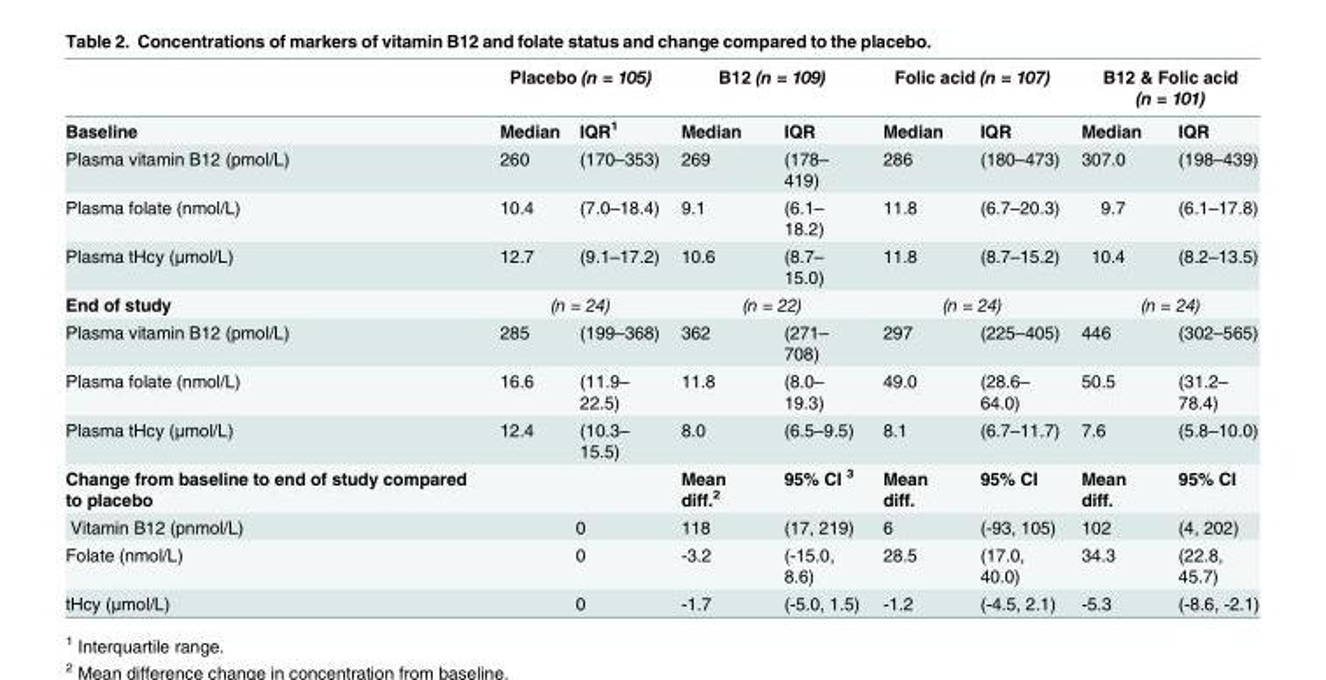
<table><thead><tr><td rowspan="2">Baseline</td><td colspan="2">Placebo (n = 105)</td><td colspan="2">B12 (n = 109)</td><td colspan="2">Folic acid (n = 107)</td><td colspan="2">B12 &amp; Folic acid (n = 101)</td></tr><tr><td>Median</td><td>IQR<sup>1</sup></td><td>Median</td><td>IQR</td><td>Median</td><td>IQR</td><td>Median</td><td>IQR</td></tr></thead><tbody><tr><td>Plasma vitamin B12 (pmol/L)</td><td>260</td><td>(170–353)</td><td>269</td><td>(178– 419)</td><td>286</td><td>(180–473)</td><td>307.0</td><td>(198–439)</td></tr><tr><td>Plasma folate (nmol/L)</td><td>10.4</td><td>(7.0–18.4)</td><td>9.1</td><td>(6.1– 18.2)</td><td>11.8</td><td>(6.7–20.3)</td><td>9.7</td><td>(6.1–17.8)</td></tr><tr><td>Plasma tHcy (μmol/L)</td><td>12.7</td><td>(9.1–17.2)</td><td>10.6</td><td>(8.7– 15.0)</td><td>11.8</td><td>(8.7–15.2)</td><td>10.4</td><td>(8.2–13.5)</td></tr><tr><td>End of study</td><td colspan="2">(n = 24)</td><td colspan="2">(n = 22)</td><td colspan="2">(n = 24)</td><td colspan="2">(n = 24)</td></tr><tr><td>Plasma vitamin B12 (pmol/L)</td><td>285</td><td>(199–368)</td><td>362</td><td>(271– 708)</td><td>297</td><td>(225–405)</td><td>446</td><td>(302–565)</td></tr><tr><td>Plasma folate (nmol/L)</td><td>16.6</td><td>(11.9– 22.5)</td><td>11.8</td><td>(8.0– 19.3)</td><td>49.0</td><td>(28.6– 64.0)</td><td>50.5</td><td>(31.2– 78.4)</td></tr><tr><td>Plasma tHcy (μmol/L)</td><td>12.4</td><td>(10.3– 15.5)</td><td>8.0</td><td>(6.5–9.5)</td><td>8.1</td><td>(6.7–11.7)</td><td>7.6</td><td>(5.8–10.0)</td></tr><tr><td>Change from baseline to end of study compared to placebo</td><td colspan="2"></td><td>Mean diff.<sup>2</sup></td><td>95% CI <sup>3</sup></td><td>Mean diff.</td><td>95% CI</td><td>Mean diff.</td><td>95% CI</td></tr><tr><td>Vitamin B12 (pnmol/L)</td><td colspan="2">0</td><td>118</td><td>(17, 219)</td><td>6</td><td>(-93, 105)</td><td>102</td><td>(4, 202)</td></tr><tr><td>Folate (nmol/L)</td><td colspan="2">0</td><td>-3.2</td><td>(-15.0, 8.6)</td><td>28.5</td><td>(17.0, 40.0)</td><td>34.3</td><td>(22.8, 45.7)</td></tr><tr><td>tHcy (μmol/L)</td><td colspan="2">0</td><td>-1.7</td><td>(-5.0, 1.5)</td><td>-1.2</td><td>(-4.5, 2.1)</td><td>-5.3</td><td>(-8.6, -2.1)</td></tr></tbody></table>